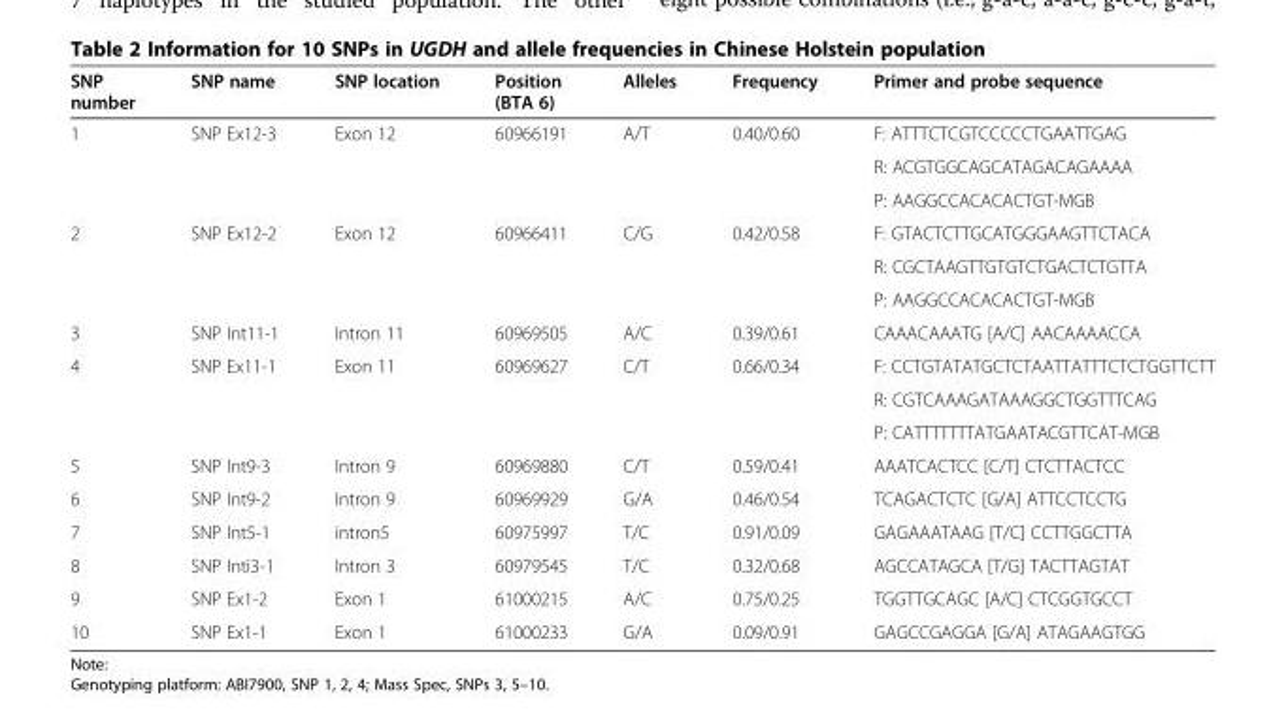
<table><thead><tr><td>SNP number</td><td>SNP name</td><td>SNP location</td><td>Position (BTA 6)</td><td>Alleles</td><td>Frequency</td><td>Primer and probe sequence</td></tr></thead><tbody><tr><td rowspan="3">1</td><td rowspan="3">SNP Ex12-3</td><td rowspan="3">Exon 12</td><td rowspan="3">60966191</td><td rowspan="3">A/T</td><td rowspan="3">0.40/0.60</td><td>F: ATTTCTCGTCCCCCTGAATTGAG</td></tr><tr><td>R: ACGTGGCAGCATAGACAGAAAA</td></tr><tr><td>P: AAGGCCACACACTGT-MGB</td></tr><tr><td rowspan="3">2</td><td rowspan="3">SNP Ex12-2</td><td rowspan="3">Exon 12</td><td rowspan="3">60966411</td><td rowspan="3">C/G</td><td rowspan="3">0.42/0.58</td><td>F: GTACTCTTGCATGGGAAGTTCTACA</td></tr><tr><td>R: CGCTAAGTTGTGTCTGACTCTGTTA</td></tr><tr><td>P: AAGGCCACACACTGT-MGB</td></tr><tr><td>3</td><td>SNP Int11-1</td><td>Intron 11</td><td>60969505</td><td>A/C</td><td>0.39/0.61</td><td>CAAACAAATG [A/C] AACAAAACCA</td></tr><tr><td rowspan="3">4</td><td rowspan="3">SNP Ex11-1</td><td rowspan="3">Exon 11</td><td rowspan="3">60969627</td><td rowspan="3">C/T</td><td rowspan="3">0.66/0.34</td><td>F: CCTGTATATGCTCTAATTATTTCTCTGGTTCTT</td></tr><tr><td>R: CGTCAAAGATAAAGGCTGGTTTCAG</td></tr><tr><td>P: CATTTTTTTATGAATACGTTCAT-MGB</td></tr><tr><td>5</td><td>SNP Int9-3</td><td>Intron 9</td><td>60969880</td><td>C/T</td><td>0.59/0.41</td><td>AAATCACTCC [C/T] CTCTTACTCC</td></tr><tr><td>6</td><td>SNP Int9-2</td><td>Intron 9</td><td>60969929</td><td>G/A</td><td>0.46/0.54</td><td>TCAGACTCTC [G/A] ATTCCTCCTG</td></tr><tr><td>7</td><td>SNP Int5-1</td><td>intron5</td><td>60975997</td><td>T/C</td><td>0.91/0.09</td><td>GAGAAATAAG [T/C] CCTTGGCTTA</td></tr><tr><td>8</td><td>SNP Inti3-1</td><td>Intron 3</td><td>60979545</td><td>T/C</td><td>0.32/0.68</td><td>AGCCATAGCA [T/G] TACTTAGTAT</td></tr><tr><td>9</td><td>SNP Ex1-2</td><td>Exon 1</td><td>61000215</td><td>A/C</td><td>0.75/0.25</td><td>TGGTTGCAGC [A/C] CTCGGTGCCT</td></tr><tr><td>10</td><td>SNP Ex1-1</td><td>Exon 1</td><td>61000233</td><td>G/A</td><td>0.09/0.91</td><td>GAGCCGAGGA [G/A] ATAGAAGTGG</td></tr></tbody></table>